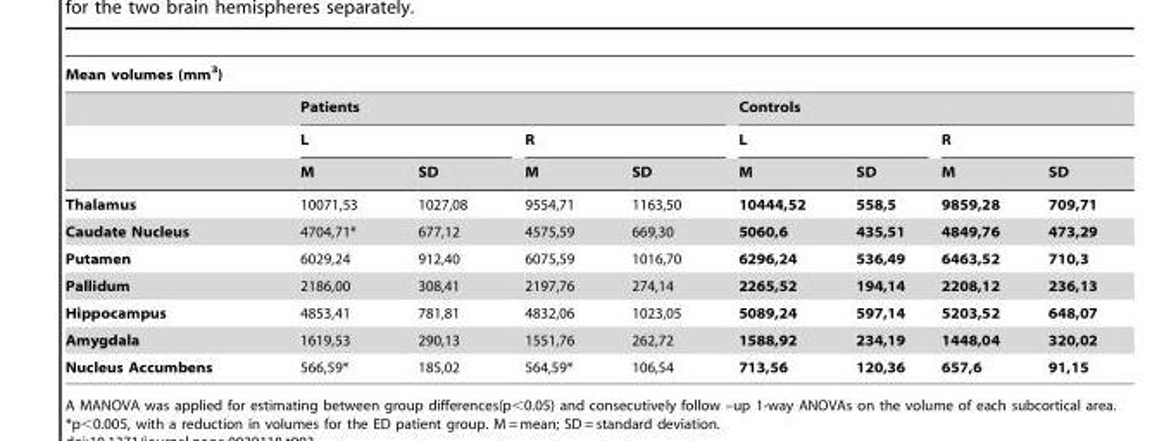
<table><thead><tr><td colspan="9">Mean volumes (mm<sup>3</sup>)</td></tr><tr><td rowspan="3"></td><td colspan="4">Patients</td><td colspan="4">Controls</td></tr><tr><td colspan="2">L</td><td colspan="2">R</td><td colspan="2">L</td><td colspan="2">R</td></tr><tr><td>M</td><td>SD</td><td>M</td><td>SD</td><td>M</td><td>SD</td><td>M</td><td>SD</td></tr></thead><tbody><tr><td>Thalamus</td><td>10071,53</td><td>1027,08</td><td>9554,71</td><td>1163,50</td><td>10444,52</td><td>558,5</td><td>9859,28</td><td>709,71</td></tr><tr><td>Caudate Nucleus</td><td>4704,71*</td><td>677,12</td><td>4575,59</td><td>669,30</td><td>5060,6</td><td>435,51</td><td>4849,76</td><td>473,29</td></tr><tr><td>Putamen</td><td>6029,24</td><td>912,40</td><td>6075,59</td><td>1016,70</td><td>6296,24</td><td>536,49</td><td>6463,52</td><td>710,3</td></tr><tr><td>Pallidum</td><td>2186,00</td><td>308,41</td><td>2197,76</td><td>274,14</td><td>2265,52</td><td>194,14</td><td>2208,12</td><td>236,13</td></tr><tr><td>Hippocampus</td><td>4853,41</td><td>781,81</td><td>4832,06</td><td>1023,05</td><td>5089,24</td><td>597,14</td><td>5203,52</td><td>648,07</td></tr><tr><td>Amygdala</td><td>1619,53</td><td>290,13</td><td>1551,76</td><td>262,72</td><td>1588,92</td><td>234,19</td><td>1448,04</td><td>320,02</td></tr><tr><td>Nucleus Accumbens</td><td>566,59*</td><td>185,02</td><td>564,59*</td><td>106,54</td><td>713,56</td><td>120,36</td><td>657,6</td><td>91,15</td></tr></tbody></table>